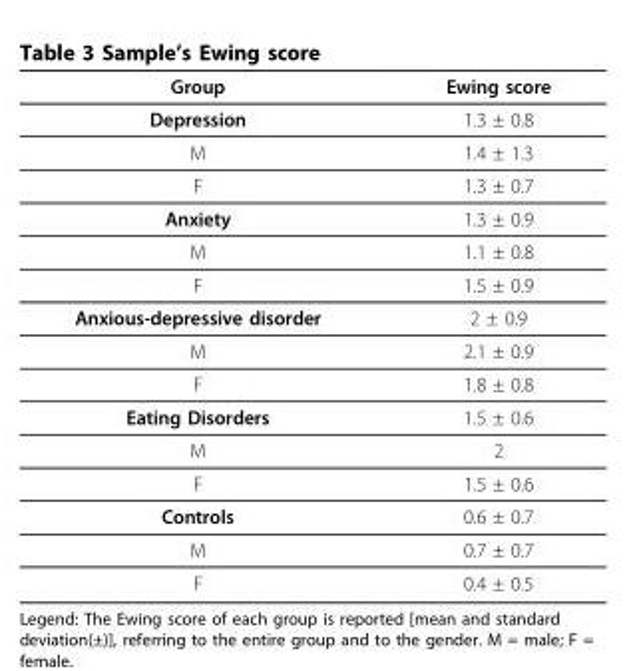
<table><thead><tr><td>Group</td><td>Ewing score</td></tr></thead><tbody><tr><td>Depression</td><td>1.3 ± 0.8</td></tr><tr><td>M</td><td>1.4 ± 1.3</td></tr><tr><td>F</td><td>1.3 ± 0.7</td></tr><tr><td>Anxiety</td><td>1.3 ± 0.9</td></tr><tr><td>M</td><td>1.1 ± 0.8</td></tr><tr><td>F</td><td>1.5 ± 0.9</td></tr><tr><td>Anxious-depressive disorder</td><td>2 ± 0.9</td></tr><tr><td>M</td><td>2.1 ± 0.9</td></tr><tr><td>F</td><td>1.8 ± 0.8</td></tr><tr><td>Eating Disorders</td><td>1.5 ± 0.6</td></tr><tr><td>M</td><td>2</td></tr><tr><td>F</td><td>1.5 ± 0.6</td></tr><tr><td>Controls</td><td>0.6 ± 0.7</td></tr><tr><td>M</td><td>0.7 ± 0.7</td></tr><tr><td>F</td><td>0.4 ± 0.5</td></tr></tbody></table>